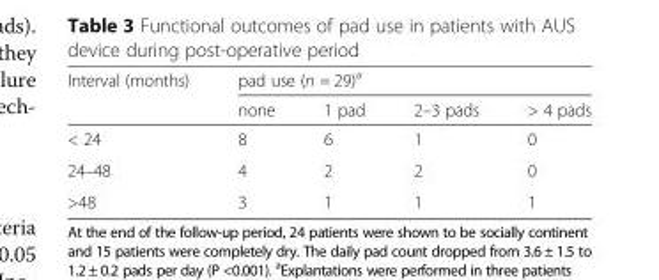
<table><thead><tr><td rowspan="2">Interval (months)</td><td colspan="4">pad use (n = 29)<sup>a</sup></td></tr><tr><td>none</td><td>1 pad</td><td>2–3 pads</td><td>&gt; 4 pads</td></tr></thead><tbody><tr><td>&lt; 24</td><td>8</td><td>6</td><td>1</td><td>0</td></tr><tr><td>24–48</td><td>4</td><td>2</td><td>2</td><td>0</td></tr><tr><td>&gt;48</td><td>3</td><td>1</td><td>1</td><td>1</td></tr></tbody></table>